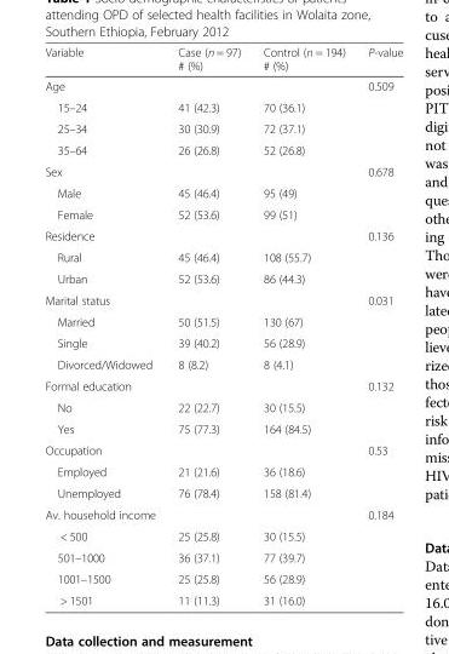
<table><thead><tr><td>Variable</td><td>Case (n = 97) # (%)</td><td>Control (n = 194) # (%)</td><td>P-value</td></tr></thead><tbody><tr><td>Age</td><td></td><td></td><td>0.509</td></tr><tr><td>15–24</td><td>41 (42.3)</td><td>70 (36.1)</td><td></td></tr><tr><td>25–34</td><td>30 (30.9)</td><td>72 (37.1)</td><td></td></tr><tr><td>35–64</td><td>26 (26.8)</td><td>52 (26.8)</td><td></td></tr><tr><td>Sex</td><td></td><td></td><td>0.678</td></tr><tr><td>Male</td><td>45 (46.4)</td><td>95 (49)</td><td></td></tr><tr><td>Female</td><td>52 (53.6)</td><td>99 (51)</td><td></td></tr><tr><td>Residence</td><td></td><td></td><td>0.136</td></tr><tr><td>Rural</td><td>45 (46.4)</td><td>108 (55.7)</td><td></td></tr><tr><td>Urban</td><td>52 (53.6)</td><td>86 (44.3)</td><td></td></tr><tr><td>Marital status</td><td></td><td></td><td>0.031</td></tr><tr><td>Married</td><td>50 (51.5)</td><td>130 (67)</td><td></td></tr><tr><td>Single</td><td>39 (40.2)</td><td>56 (28.9)</td><td></td></tr><tr><td>Divorced/Widowed</td><td>8 (8.2)</td><td>8 (4.1)</td><td></td></tr><tr><td>Formal education</td><td></td><td></td><td>0.132</td></tr><tr><td>No</td><td>22 (22.7)</td><td>30 (15.5)</td><td></td></tr><tr><td>Yes</td><td>75 (77.3)</td><td>164 (84.5)</td><td></td></tr><tr><td>Occupation</td><td></td><td></td><td>0.53</td></tr><tr><td>Employed</td><td>21 (21.6)</td><td>36 (18.6)</td><td></td></tr><tr><td>Unemployed</td><td>76 (78.4)</td><td>158 (81.4)</td><td></td></tr><tr><td>Av. household income</td><td></td><td></td><td>0.184</td></tr><tr><td>&lt; 500</td><td>25 (25.8)</td><td>30 (15.5)</td><td></td></tr><tr><td>501–1000</td><td>36 (37.1)</td><td>77 (39.7)</td><td></td></tr><tr><td>1001–1500</td><td>25 (25.8)</td><td>56 (28.9)</td><td></td></tr><tr><td>&gt; 1501</td><td>11 (11.3)</td><td>31 (16.0)</td><td></td></tr></tbody></table>